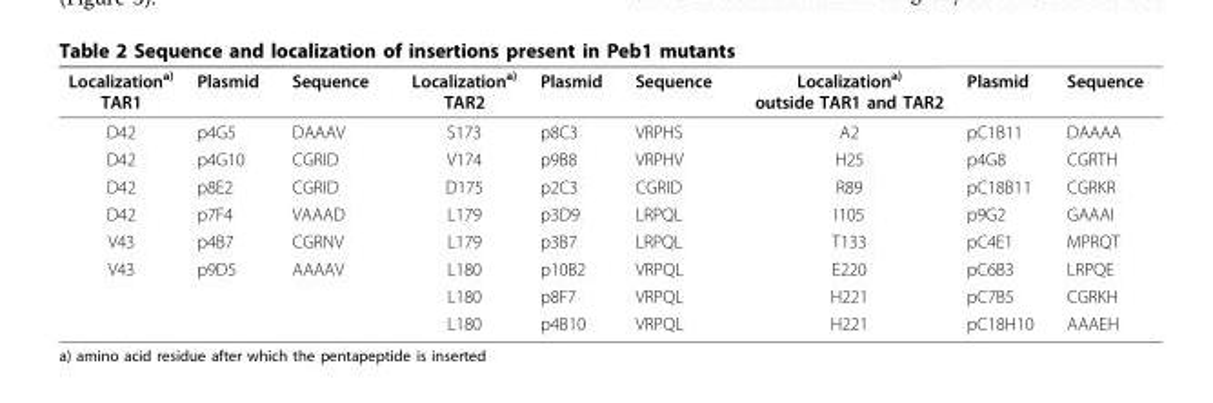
<table><thead><tr><td>Localization<sup>a)</sup> TAR1</td><td>Plasmid</td><td>Sequence</td><td>Localization<sup>a)</sup> TAR2</td><td>Plasmid</td><td>Sequence</td><td>Localization<sup>a)</sup> outside TAR1 and TAR2</td><td>Plasmid</td><td>Sequence</td></tr></thead><tbody><tr><td>D42</td><td>p4G5</td><td>DAAAV</td><td>S173</td><td>p8C3</td><td>VRPHS</td><td>A2</td><td>pC1B11</td><td>DAAAA</td></tr><tr><td>D42</td><td>p4G10</td><td>CGRID</td><td>V174</td><td>p9B8</td><td>VRPHV</td><td>H25</td><td>p4G8</td><td>CGRTH</td></tr><tr><td>D42</td><td>p8E2</td><td>CGRID</td><td>D175</td><td>p2C3</td><td>CGRID</td><td>R89</td><td>pC18B11</td><td>CGRKR</td></tr><tr><td>D42</td><td>p7F4</td><td>VAAAD</td><td>L179</td><td>p3D9</td><td>LRPQL</td><td>I105</td><td>p9G2</td><td>GAAAI</td></tr><tr><td>V43</td><td>p4B7</td><td>CGRNV</td><td>L179</td><td>p3B7</td><td>LRPQL</td><td>T133</td><td>pC4E1</td><td>MPRQT</td></tr><tr><td rowspan="3">V43</td><td>p9D5</td><td>AAAAV</td><td>L180</td><td>p10B2</td><td>VRPQL</td><td>E220</td><td>pC6B3</td><td>LRPQE</td></tr><tr><td></td><td></td><td>L180</td><td>p8F7</td><td>VRPQL</td><td>H221</td><td>pC7B5</td><td>CGRKH</td></tr><tr><td></td><td></td><td>L180</td><td>p4B10</td><td>VRPQL</td><td>H221</td><td>pC18H10</td><td>AAAEH</td></tr></tbody></table>